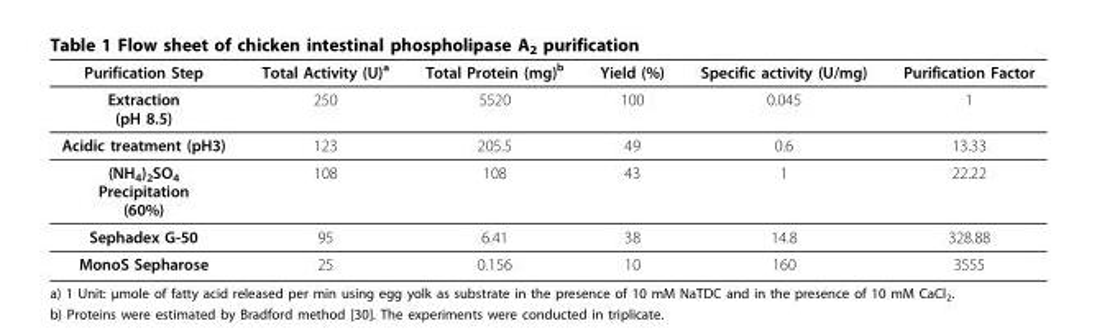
<table><thead><tr><td>Purification Step</td><td>Total Activity (U)<sup>a</sup></td><td>Total Protein (mg)<sup>b</sup></td><td>Yield (%)</td><td>Specific activity (U/mg)</td><td>Purification Factor</td></tr></thead><tbody><tr><td>Extraction (pH 8.5)</td><td>250</td><td>5520</td><td>100</td><td>0.045</td><td>1</td></tr><tr><td>Acidic treatment (pH3)</td><td>123</td><td>205.5</td><td>49</td><td>0.6</td><td>13.33</td></tr><tr><td>(NH<sub>4</sub>)<sub>2</sub>SO<sub>4</sub> Precipitation (60%)</td><td>108</td><td>108</td><td>43</td><td>1</td><td>22.22</td></tr><tr><td>Sephadex G-50</td><td>95</td><td>6.41</td><td>38</td><td>14.8</td><td>328.88</td></tr><tr><td>MonoS Sepharose</td><td>25</td><td>0.156</td><td>10</td><td>160</td><td>3555</td></tr></tbody></table>